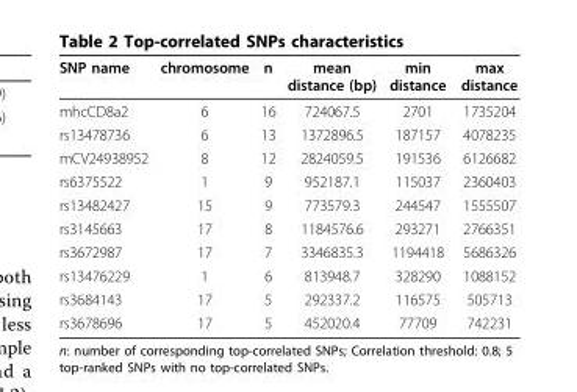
<table><thead><tr><td>SNP name</td><td>chromosome</td><td>n</td><td>mean distance (bp)</td><td>min distance</td><td>max distance</td></tr></thead><tbody><tr><td>mhcCD8a2</td><td>6</td><td>16</td><td>724067.5</td><td>2701</td><td>1735204</td></tr><tr><td>rs13478736</td><td>6</td><td>13</td><td>1372896.5</td><td>187157</td><td>4078235</td></tr><tr><td>mCV24938952</td><td>8</td><td>12</td><td>2824059.5</td><td>191536</td><td>6126682</td></tr><tr><td>rs6375522</td><td>1</td><td>9</td><td>952187.1</td><td>115037</td><td>2360403</td></tr><tr><td>rs13482427</td><td>15</td><td>9</td><td>773579.3</td><td>244547</td><td>1555507</td></tr><tr><td>rs3145663</td><td>17</td><td>8</td><td>1184576.6</td><td>293271</td><td>2766351</td></tr><tr><td>rs3672987</td><td>17</td><td>7</td><td>3346835.3</td><td>1194418</td><td>5686326</td></tr><tr><td>rs13476229</td><td>1</td><td>6</td><td>813948.7</td><td>328290</td><td>1088152</td></tr><tr><td>rs3684143</td><td>17</td><td>5</td><td>292337.2</td><td>116575</td><td>505713</td></tr><tr><td>rs3678696</td><td>17</td><td>5</td><td>452020.4</td><td>77709</td><td>742231</td></tr></tbody></table>